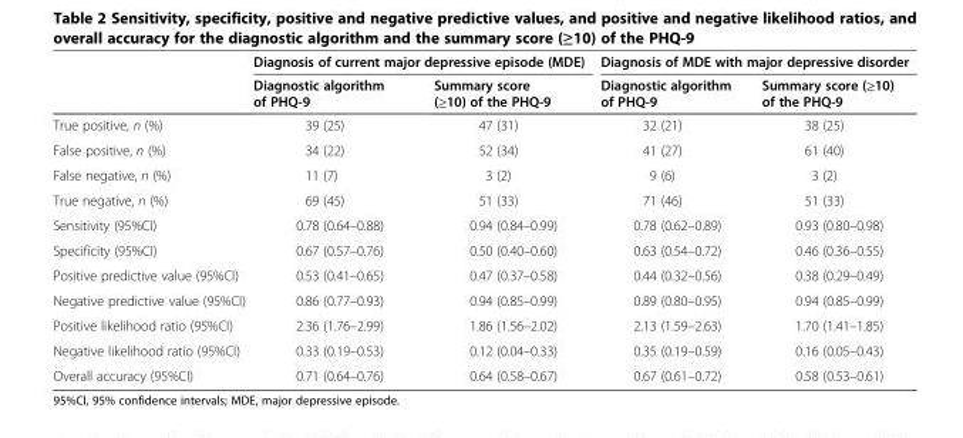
<table><thead><tr><td rowspan="2"></td><td colspan="2">Diagnosis of current major depressive episode (MDE)</td><td colspan="2">Diagnosis of MDE with major depressive disorder</td></tr><tr><td>Diagnostic algorithm of PHQ-9</td><td>Summary score (≥10) of the PHQ-9</td><td>Diagnostic algorithm of PHQ-9</td><td>Summary score (≥10) of the PHQ-9</td></tr></thead><tbody><tr><td>True positive, n (%)</td><td>39 (25)</td><td>47 (31)</td><td>32 (21)</td><td>38 (25)</td></tr><tr><td>False positive, n (%)</td><td>34 (22)</td><td>52 (34)</td><td>41 (27)</td><td>61 (40)</td></tr><tr><td>False negative, n (%)</td><td>11 (7)</td><td>3 (2)</td><td>9 (6)</td><td>3 (2)</td></tr><tr><td>True negative, n (%)</td><td>69 (45)</td><td>51 (33)</td><td>71 (46)</td><td>51 (33)</td></tr><tr><td>Sensitivity (95%CI)</td><td>0.78 (0.64–0.88)</td><td>0.94 (0.84–0.99)</td><td>0.78 (0.62–0.89)</td><td>0.93 (0.80–0.98)</td></tr><tr><td>Specificity (95%CI)</td><td>0.67 (0.57–0.76)</td><td>0.50 (0.40–0.60)</td><td>0.63 (0.54–0.72)</td><td>0.46 (0.36–0.55)</td></tr><tr><td>Positive predictive value (95%CI)</td><td>0.53 (0.41–0.65)</td><td>0.47 (0.37–0.58)</td><td>0.44 (0.32–0.56)</td><td>0.38 (0.29–0.49)</td></tr><tr><td>Negative predictive value (95%CI)</td><td>0.86 (0.77–0.93)</td><td>0.94 (0.85–0.99)</td><td>0.89 (0.80–0.95)</td><td>0.94 (0.85–0.99)</td></tr><tr><td>Positive likelihood ratio (95%CI)</td><td>2.36 (1.76–2.99)</td><td>1.86 (1.56–2.02)</td><td>2.13 (1.59–2.63)</td><td>1.70 (1.41–1.85)</td></tr><tr><td>Negative likelihood ratio (95%CI)</td><td>0.33 (0.19–0.53)</td><td>0.12 (0.04–0.33)</td><td>0.35 (0.19–0.59)</td><td>0.16 (0.05–0.43)</td></tr><tr><td>Overall accuracy (95%CI)</td><td>0.71 (0.64–0.76)</td><td>0.64 (0.58–0.67)</td><td>0.67 (0.61–0.72)</td><td>0.58 (0.53–0.61)</td></tr></tbody></table>